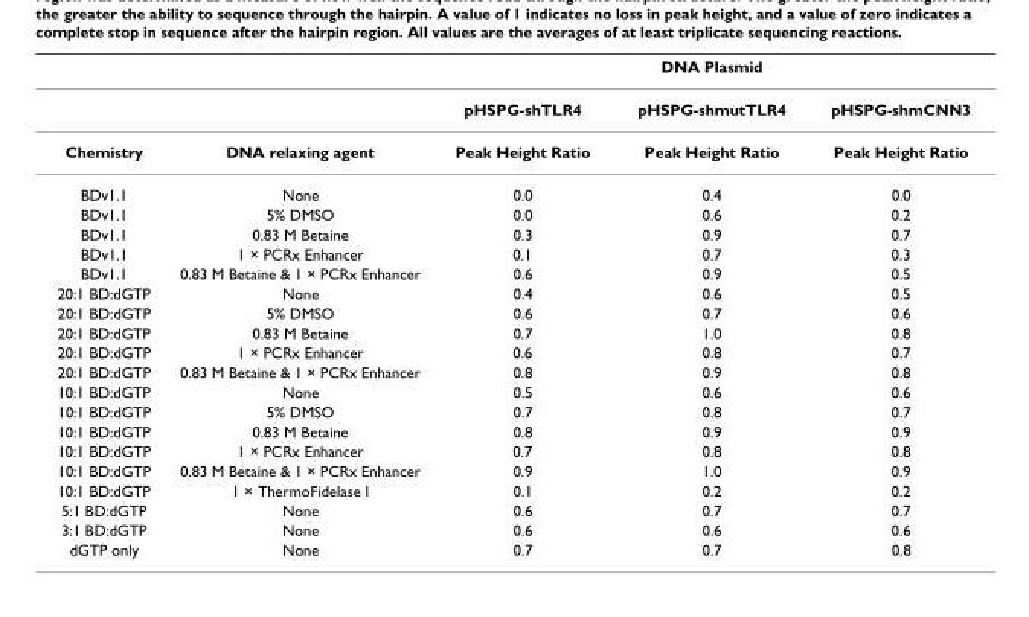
<table><thead><tr><td rowspan="2"></td><td rowspan="2"></td><td colspan="3">DNA Plasmid</td></tr><tr><td>pHSPG-shTLR4</td><td>pHSPG-shmutTLR4</td><td>pHSPG-shmCNN3</td></tr></thead><tbody><tr><td>Chemistry</td><td>DNA relaxing agent</td><td>Peak Height Ratio</td><td>Peak Height Ratio</td><td>Peak Height Ratio</td></tr><tr><td>BDv1.1</td><td>None</td><td>0.0</td><td>0.4</td><td>0.0</td></tr><tr><td>BDv1.1</td><td>5% DMSO</td><td>0.0</td><td>0.6</td><td>0.2</td></tr><tr><td>BDv1.1</td><td>0.83 M Betaine</td><td>0.3</td><td>0.9</td><td>0.7</td></tr><tr><td>BDv1.1</td><td>1 × PCRx Enhancer</td><td>0.1</td><td>0.7</td><td>0.3</td></tr><tr><td>BDv1.1</td><td>0.83 M Betaine &amp; 1 × PCRx Enhancer</td><td>0.6</td><td>0.9</td><td>0.5</td></tr><tr><td>20:1 BD:dGTP</td><td>None</td><td>0.4</td><td>0.6</td><td>0.5</td></tr><tr><td>20:1 BD:dGTP</td><td>5% DMSO</td><td>0.6</td><td>0.7</td><td>0.6</td></tr><tr><td>20:1 BD:dGTP</td><td>0.83 M Betaine</td><td>0.7</td><td>1.0</td><td>0.8</td></tr><tr><td>20:1 BD:dGTP</td><td>1 × PCRx Enhancer</td><td>0.6</td><td>0.8</td><td>0.7</td></tr><tr><td>20:1 BD:dGTP</td><td>0.83 M Betaine &amp; 1 × PCRx Enhancer</td><td>0.8</td><td>0.9</td><td>0.8</td></tr><tr><td>10:1 BD:dGTP</td><td>None</td><td>0.5</td><td>0.6</td><td>0.6</td></tr><tr><td>10:1 BD:dGTP</td><td>5% DMSO</td><td>0.7</td><td>0.8</td><td>0.7</td></tr><tr><td>10:1 BD:dGTP</td><td>0.83 M Betaine</td><td>0.8</td><td>0.9</td><td>0.9</td></tr><tr><td>10:1 BD:dGTP</td><td>1 × PCRx Enhancer</td><td>0.7</td><td>0.8</td><td>0.8</td></tr><tr><td>10:1 BD:dGTP</td><td>0.83 M Betaine &amp; 1 × PCRx Enhancer</td><td>0.9</td><td>1.0</td><td>0.9</td></tr><tr><td>10:1 BD:dGTP</td><td>1 × ThermoFidelase I</td><td>0.1</td><td>0.2</td><td>0.2</td></tr><tr><td>5:1 BD:dGTP</td><td>None</td><td>0.6</td><td>0.7</td><td>0.7</td></tr><tr><td>3:1 BD:dGTP</td><td>None</td><td>0.6</td><td>0.6</td><td>0.6</td></tr><tr><td>dGTP only</td><td>None</td><td>0.7</td><td>0.7</td><td>0.8</td></tr></tbody></table>